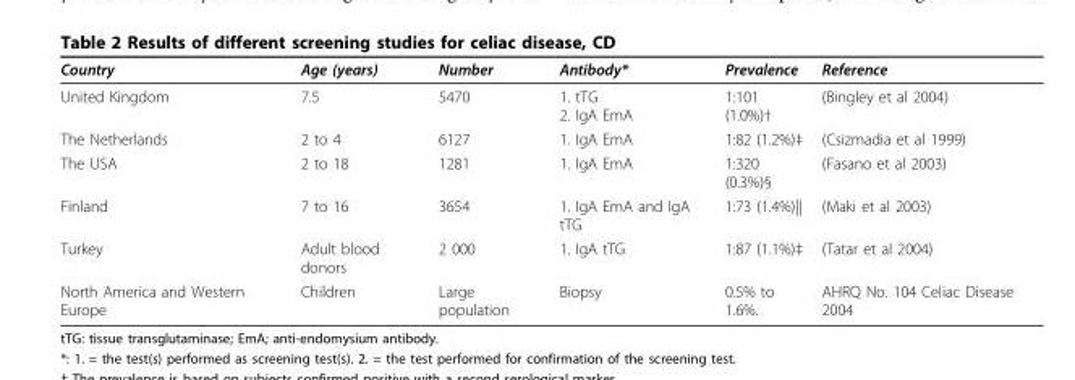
<table><thead><tr><td>Country</td><td>Age (years)</td><td>Number</td><td>Antibody*</td><td>Prevalence</td><td>Reference</td></tr></thead><tbody><tr><td>United Kingdom</td><td>7.5</td><td>5470</td><td>1. tTG 2. IgA EmA</td><td>1:101 (1.0%)†</td><td>(Bingley et al 2004)</td></tr><tr><td>The Netherlands</td><td>2 to 4</td><td>6127</td><td>1. IgA EmA</td><td>1:82 (1.2%)‡</td><td>(Csizmadia et al 1999)</td></tr><tr><td>The USA</td><td>2 to 18</td><td>1281</td><td>1. IgA EmA</td><td>1:320 (0.3%)§</td><td>(Fasano et al 2003)</td></tr><tr><td>Finland</td><td>7 to 16</td><td>3654</td><td>1. IgA EmA and IgA tTG</td><td>1:73 (1.4%)||</td><td>(Maki et al 2003)</td></tr><tr><td>Turkey</td><td>Adult blood donors</td><td>2 000</td><td>1. IgA tTG</td><td>1:87 (1.1%)‡</td><td>(Tatar et al 2004)</td></tr><tr><td>North America and Western Europe</td><td>Children</td><td>Large population</td><td>Biopsy</td><td>0.5% to 1.6%.</td><td>AHRQ No. 104 Celiac Disease 2004</td></tr></tbody></table>